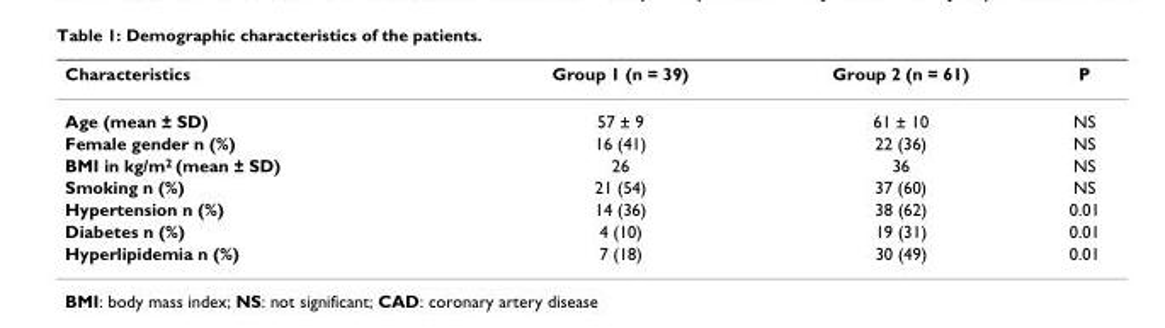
<table><thead><tr><td>Characteristics</td><td>Group 1 (n = 39)</td><td>Group 2 (n = 61)</td><td>P</td></tr></thead><tbody><tr><td>Age (mean ± SD)</td><td>57 ± 9</td><td>61 ± 10</td><td>NS</td></tr><tr><td>Female gender n (%)</td><td>16 (41)</td><td>22 (36)</td><td>NS</td></tr><tr><td>BMI in kg/m<sup>2</sup> (mean ± SD)</td><td>26</td><td>36</td><td>NS</td></tr><tr><td>Smoking n (%)</td><td>21 (54)</td><td>37 (60)</td><td>NS</td></tr><tr><td>Hypertension n (%)</td><td>14 (36)</td><td>38 (62)</td><td>0.01</td></tr><tr><td>Diabetes n (%)</td><td>4 (10)</td><td>19 (31)</td><td>0.01</td></tr><tr><td>Hyperlipidemia n (%)</td><td>7 (18)</td><td>30 (49)</td><td>0.01</td></tr></tbody></table>